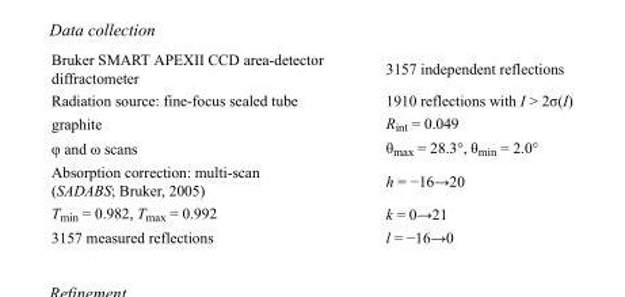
<table><tbody><tr><td>Bruker SMART APEXII CCD area-detector diffractometer</td><td>3157 independent reflections</td></tr><tr><td>Radiation source: fine-focus sealed tube</td><td>1910 reflections with I &gt; 2σ(I)</td></tr><tr><td>graphite</td><td>R<sub>int</sub> = 0.049</td></tr><tr><td>φ and ω scans</td><td>θ<sub>max</sub> = 28.3°, θ<sub>min</sub> = 2.0°</td></tr><tr><td>Absorption correction: multi-scan (SADABS; Bruker, 2005)</td><td>h = −16→20</td></tr><tr><td>T<sub>min</sub> = 0.982, T<sub>max</sub> = 0.992</td><td>k = 0→21</td></tr><tr><td>3157 measured reflections</td><td>l = −16→0</td></tr></tbody></table>